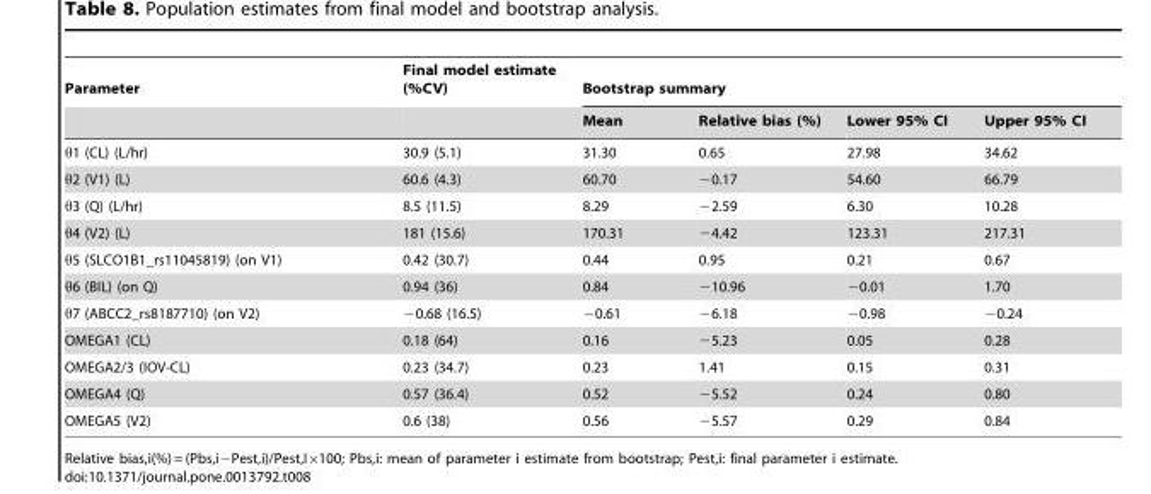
<table><thead><tr><td rowspan="2">Parameter</td><td rowspan="2">Final model estimate (%CV)</td><td colspan="4">Bootstrap summary</td></tr><tr><td>Mean</td><td>Relative bias (%)</td><td>Lower 95% CI</td><td>Upper 95% CI</td></tr></thead><tbody><tr><td>θ1 (CL) (L/hr)</td><td>30.9 (5.1)</td><td>31.30</td><td>0.65</td><td>27.98</td><td>34.62</td></tr><tr><td>θ2 (V1) (L)</td><td>60.6 (4.3)</td><td>60.70</td><td>−0.17</td><td>54.60</td><td>66.79</td></tr><tr><td>θ3 (Q) (L/hr)</td><td>8.5 (11.5)</td><td>8.29</td><td>−2.59</td><td>6.30</td><td>10.28</td></tr><tr><td>θ4 (V2) (L)</td><td>181 (15.6)</td><td>170.31</td><td>−4.42</td><td>123.31</td><td>217.31</td></tr><tr><td>θ5 (SLCO1B1_rs11045819) (on V1)</td><td>0.42 (30.7)</td><td>0.44</td><td>0.95</td><td>0.21</td><td>0.67</td></tr><tr><td>θ6 (BIL) (on Q)</td><td>0.94 (36)</td><td>0.84</td><td>−10.96</td><td>−0.01</td><td>1.70</td></tr><tr><td>θ7 (ABCC2_rs8187710) (on V2)</td><td>−0.68 (16.5)</td><td>−0.61</td><td>−6.18</td><td>−0.98</td><td>−0.24</td></tr><tr><td>OMEGA1 (CL)</td><td>0.18 (64)</td><td>0.16</td><td>−5.23</td><td>0.05</td><td>0.28</td></tr><tr><td>OMEGA2/3 (IOV-CL)</td><td>0.23 (34.7)</td><td>0.23</td><td>1.41</td><td>0.15</td><td>0.31</td></tr><tr><td>OMEGA4 (Q)</td><td>0.57 (36.4)</td><td>0.52</td><td>−5.52</td><td>0.24</td><td>0.80</td></tr><tr><td>OMEGA5 (V2)</td><td>0.6 (38)</td><td>0.56</td><td>−5.57</td><td>0.29</td><td>0.84</td></tr></tbody></table>